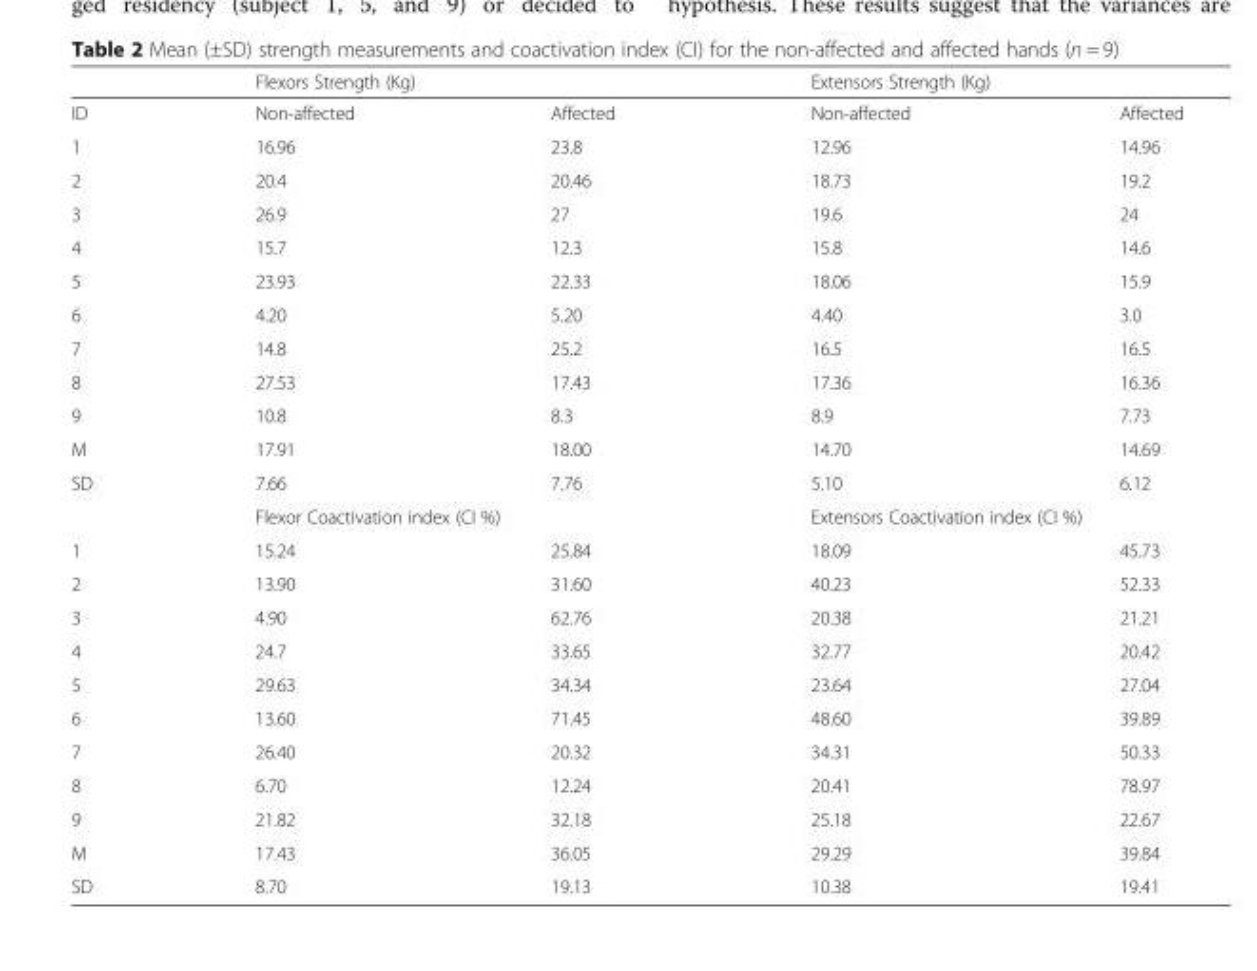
<table><thead><tr><td rowspan="2">ID</td><td colspan="2">Flexors Strength (Kg)</td><td colspan="2">Extensors Strength (Kg)</td></tr><tr><td>Non-affected</td><td>Affected</td><td>Non-affected</td><td>Affected</td></tr></thead><tbody><tr><td>1</td><td>16.96</td><td>23.8</td><td>12.96</td><td>14.96</td></tr><tr><td>2</td><td>20.4</td><td>20.46</td><td>18.73</td><td>19.2</td></tr><tr><td>3</td><td>26.9</td><td>27</td><td>19.6</td><td>24</td></tr><tr><td>4</td><td>15.7</td><td>12.3</td><td>15.8</td><td>14.6</td></tr><tr><td>5</td><td>23.93</td><td>22.33</td><td>18.06</td><td>15.9</td></tr><tr><td>6</td><td>4.20</td><td>5.20</td><td>4.40</td><td>3.0</td></tr><tr><td>7</td><td>14.8</td><td>25.2</td><td>16.5</td><td>16.5</td></tr><tr><td>8</td><td>27.53</td><td>17.43</td><td>17.36</td><td>16.36</td></tr><tr><td>9</td><td>10.8</td><td>8.3</td><td>8.9</td><td>7.73</td></tr><tr><td>M</td><td>17.91</td><td>18.00</td><td>14.70</td><td>14.69</td></tr><tr><td rowspan="2">SD</td><td>7.66</td><td>7.76</td><td>5.10</td><td>6.12</td></tr><tr><td colspan="2">Flexor Coactivation index (CI %)</td><td colspan="2">Extensors Coactivation index (CI %)</td></tr><tr><td>1</td><td>15.24</td><td>25.84</td><td>18.09</td><td>45.73</td></tr><tr><td>2</td><td>13.90</td><td>31.60</td><td>40.23</td><td>52.33</td></tr><tr><td>3</td><td>4.90</td><td>62.76</td><td>20.38</td><td>21.21</td></tr><tr><td>4</td><td>24.7</td><td>33.65</td><td>32.77</td><td>20.42</td></tr><tr><td>5</td><td>29.63</td><td>34.34</td><td>23.64</td><td>27.04</td></tr><tr><td>6</td><td>13.60</td><td>71.45</td><td>48.60</td><td>39.89</td></tr><tr><td>7</td><td>26.40</td><td>20.32</td><td>34.31</td><td>50.33</td></tr><tr><td>8</td><td>6.70</td><td>12.24</td><td>20.41</td><td>78.97</td></tr><tr><td>9</td><td>21.82</td><td>32.18</td><td>25.18</td><td>22.67</td></tr><tr><td>M</td><td>17.43</td><td>36.05</td><td>29.29</td><td>39.84</td></tr><tr><td>SD</td><td>8.70</td><td>19.13</td><td>10.38</td><td>19.41</td></tr></tbody></table>